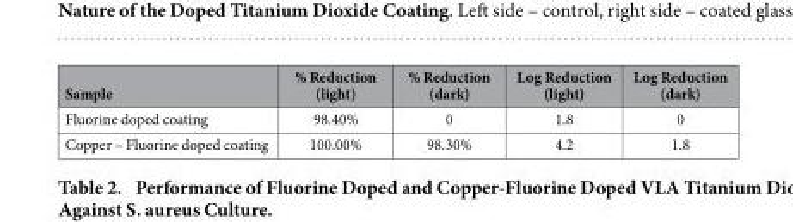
<table><thead><tr><td>Sample</td><td>% Reduction (light)</td><td>% Reduction (dark)</td><td>Log Reduction (light)</td><td>Log Reduction (dark)</td></tr></thead><tbody><tr><td>Fluorine doped coating</td><td>98.40%</td><td>0</td><td>1.8</td><td>0</td></tr><tr><td>Copper – Fluorine doped coating</td><td>100.00%</td><td>98.30%</td><td>4.2</td><td>1.8</td></tr></tbody></table>